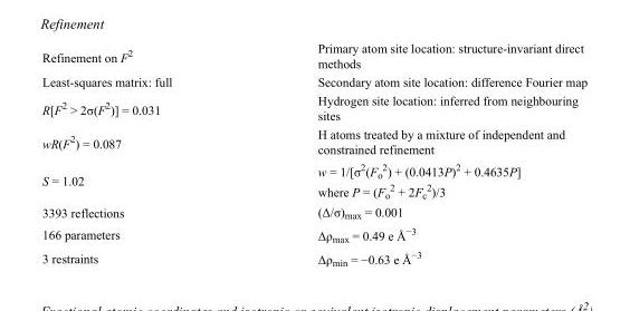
<table><tbody><tr><td>Refinement on F<sup>2</sup></td><td>Primary atom site location: structure-invariant direct methods</td></tr><tr><td>Least-squares matrix: full</td><td>Secondary atom site location: difference Fourier map</td></tr><tr><td>R[F<sup>2</sup> &gt; 2σ(F<sup>2</sup>)] = 0.031</td><td>Hydrogen site location: inferred from neighbouring sites</td></tr><tr><td>wR(F<sup>2</sup>) = 0.087</td><td>H atoms treated by a mixture of independent and constrained refinement</td></tr><tr><td>S = 1.02</td><td>w = 1/[σ<sup>2</sup>(F<sub>o</sub> <sup>2</sup>) + (0.0413P)<sup>2</sup> + 0.4635P] where P = (F<sub>o</sub> <sup>2</sup> + 2F<sub>c</sub> <sup>2</sup>)/3</td></tr><tr><td>3393 reflections</td><td>(Δ/σ)<sub>max</sub> = 0.001</td></tr><tr><td>166 parameters</td><td>Δρ<sub>max</sub> = 0.49 e Å<sup>−3</sup></td></tr><tr><td>3 restraints</td><td>Δρ<sub>min</sub> = −0.63 e Å<sup>−3</sup></td></tr></tbody></table>